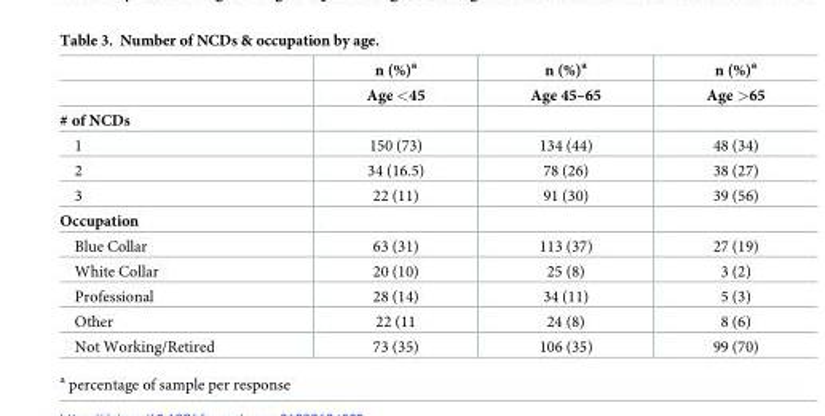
<table><thead><tr><td rowspan="2"></td><td rowspan="2">n (%)<sup>a</sup> Age &lt;45</td><td rowspan="2">n (%)<sup>a</sup> Age 45–65</td><td rowspan="2">n (%)<sup>a</sup> Age &gt;65</td></tr><tr></tr></thead><tbody><tr><td colspan="4"># of NCDs</td></tr><tr><td>1</td><td>150 (73)</td><td>134 (44)</td><td>48 (34)</td></tr><tr><td>2</td><td>34 (16.5)</td><td>78 (26)</td><td>38 (27)</td></tr><tr><td>3</td><td>22 (11)</td><td>91 (30)</td><td>39 (56)</td></tr><tr><td colspan="4">Occupation</td></tr><tr><td>Blue Collar</td><td>63 (31)</td><td>113 (37)</td><td>27 (19)</td></tr><tr><td>White Collar</td><td>20 (10)</td><td>25 (8)</td><td>3 (2)</td></tr><tr><td>Professional</td><td>28 (14)</td><td>34 (11)</td><td>5 (3)</td></tr><tr><td>Other</td><td>22 (11</td><td>24 (8)</td><td>8 (6)</td></tr><tr><td>Not Working/Retired</td><td>73 (35)</td><td>106 (35)</td><td>99 (70)</td></tr></tbody></table>